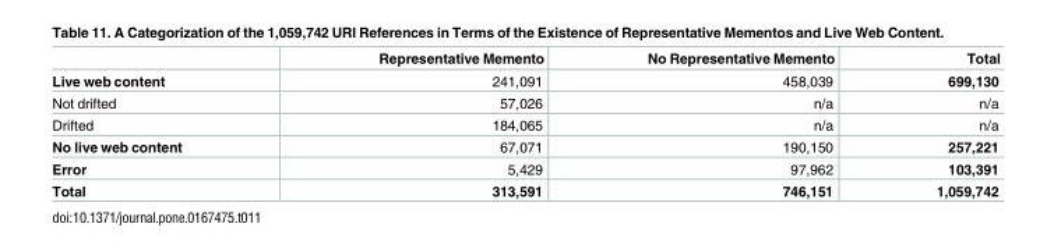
<table><thead><tr><td></td><td>Representative Memento</td><td>No Representative Memento</td><td>Total</td></tr></thead><tbody><tr><td>Live web content</td><td>241,091</td><td>458,039</td><td>699,130</td></tr><tr><td>Not drifted</td><td>57,026</td><td>n/a</td><td>n/a</td></tr><tr><td>Drifted</td><td>184,065</td><td>n/a</td><td>n/a</td></tr><tr><td>No live web content</td><td>67,071</td><td>190,150</td><td>257,221</td></tr><tr><td>Error</td><td>5,429</td><td>97,962</td><td>103,391</td></tr><tr><td>Total</td><td>313,591</td><td>746,151</td><td>1,059,742</td></tr></tbody></table>